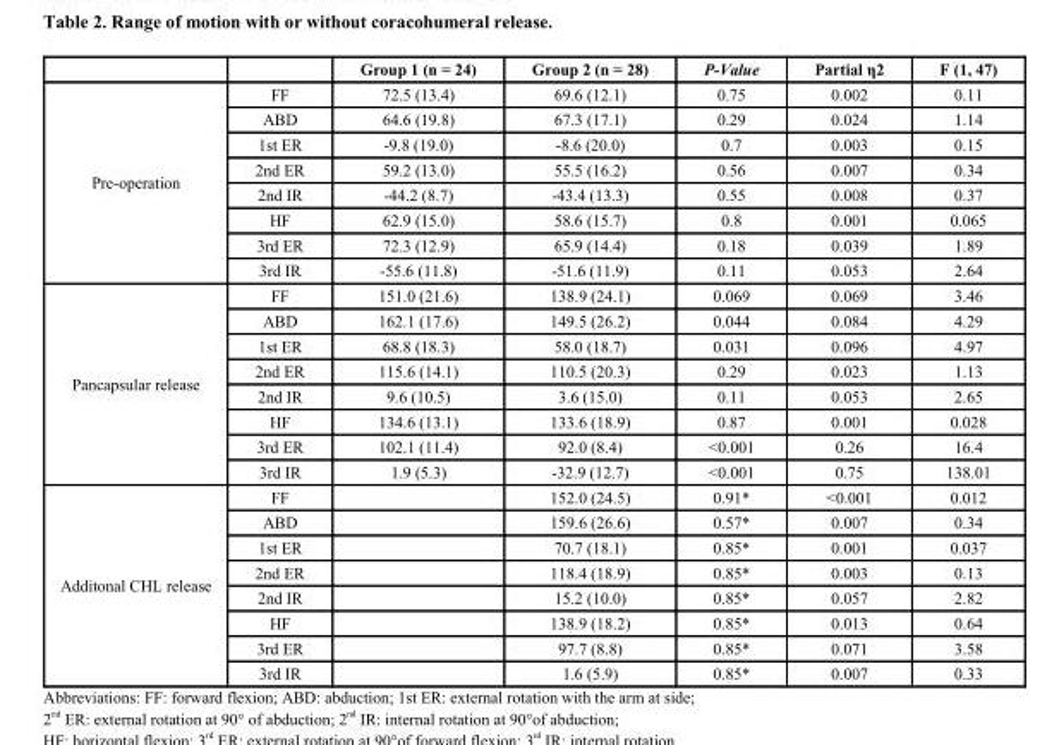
<table><thead><tr><td></td><td></td><td>Group 1 (n = 24)</td><td>Group 2 (n = 28)</td><td>P-Value</td><td>Partial η2</td><td>F (1, 47)</td></tr></thead><tbody><tr><td rowspan="8">Pre-operation</td><td>FF</td><td>72.5 (13.4)</td><td>69.6 (12.1)</td><td>0.75</td><td>0.002</td><td>0.11</td></tr><tr><td>ABD</td><td>64.6 (19.8)</td><td>67.3 (17.1)</td><td>0.29</td><td>0.024</td><td>1.14</td></tr><tr><td>1st ER</td><td>-9.8 (19.0)</td><td>-8.6 (20.0)</td><td>0.7</td><td>0.003</td><td>0.15</td></tr><tr><td>2nd ER</td><td>59.2 (13.0)</td><td>55.5 (16.2)</td><td>0.56</td><td>0.007</td><td>0.34</td></tr><tr><td>2nd IR</td><td>-44.2 (8.7)</td><td>-43.4 (13.3)</td><td>0.55</td><td>0.008</td><td>0.37</td></tr><tr><td>HF</td><td>62.9 (15.0)</td><td>58.6 (15.7)</td><td>0.8</td><td>0.001</td><td>0.065</td></tr><tr><td>3rd ER</td><td>72.3 (12.9)</td><td>65.9 (14.4)</td><td>0.18</td><td>0.039</td><td>1.89</td></tr><tr><td>3rd IR</td><td>-55.6 (11.8)</td><td>-51.6 (11.9)</td><td>0.11</td><td>0.053</td><td>2.64</td></tr><tr><td rowspan="8">Pancapsular release</td><td>FF</td><td>151.0 (21.6)</td><td>138.9 (24.1)</td><td>0.069</td><td>0.069</td><td>3.46</td></tr><tr><td>ABD</td><td>162.1 (17.6)</td><td>149.5 (26.2)</td><td>0.044</td><td>0.084</td><td>4.29</td></tr><tr><td>1st ER</td><td>68.8 (18.3)</td><td>58.0 (18.7)</td><td>0.031</td><td>0.096</td><td>4.97</td></tr><tr><td>2nd ER</td><td>115.6 (14.1)</td><td>110.5 (20.3)</td><td>0.29</td><td>0.023</td><td>1.13</td></tr><tr><td>2nd IR</td><td>9.6 (10.5)</td><td>3.6 (15.0)</td><td>0.11</td><td>0.053</td><td>2.65</td></tr><tr><td>HF</td><td>134.6 (13.1)</td><td>133.6 (18.9)</td><td>0.87</td><td>0.001</td><td>0.028</td></tr><tr><td>3rd ER</td><td>102.1 (11.4)</td><td>92.0 (8.4)</td><td>&lt;0.001</td><td>0.26</td><td>16.4</td></tr><tr><td>3rd IR</td><td>1.9 (5.3)</td><td>-32.9 (12.7)</td><td>&lt;0.001</td><td>0.75</td><td>138.01</td></tr><tr><td rowspan="8">Additonal CHL release</td><td>FF</td><td></td><td>152.0 (24.5)</td><td>0.91*</td><td>&lt;0.001</td><td>0.012</td></tr><tr><td>ABD</td><td></td><td>159.6 (26.6)</td><td>0.57*</td><td>0.007</td><td>0.34</td></tr><tr><td>1st ER</td><td></td><td>70.7 (18.1)</td><td>0.85*</td><td>0.001</td><td>0.037</td></tr><tr><td>2nd ER</td><td></td><td>118.4 (18.9)</td><td>0.85*</td><td>0.003</td><td>0.13</td></tr><tr><td>2nd IR</td><td></td><td>15.2 (10.0)</td><td>0.85*</td><td>0.057</td><td>2.82</td></tr><tr><td>HF</td><td></td><td>138.9 (18.2)</td><td>0.85*</td><td>0.013</td><td>0.64</td></tr><tr><td>3rd ER</td><td></td><td>97.7 (8.8)</td><td>0.85*</td><td>0.071</td><td>3.58</td></tr><tr><td>3rd IR</td><td></td><td>1.6 (5.9)</td><td>0.85*</td><td>0.007</td><td>0.33</td></tr></tbody></table>